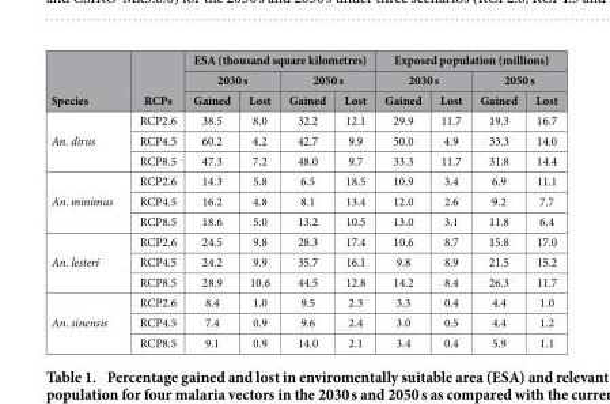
<table><thead><tr><td rowspan="3">Species</td><td rowspan="3">RCPs</td><td colspan="4">ESA (thousand square kilometres)</td><td colspan="4">Exposed population (millions)</td></tr><tr><td colspan="2">2030 s</td><td colspan="2">2050 s</td><td colspan="2">2030 s</td><td colspan="2">2050 s</td></tr><tr><td>Gained</td><td>Lost</td><td>Gained</td><td>Lost</td><td>Gained</td><td>Lost</td><td>Gained</td><td>Lost</td></tr></thead><tbody><tr><td rowspan="3">An. dirus</td><td>RCP2.6</td><td>38.5</td><td>8.0</td><td>32.2</td><td>12.1</td><td>29.9</td><td>11.7</td><td>19.3</td><td>16.7</td></tr><tr><td>RCP4.5</td><td>60.2</td><td>4.2</td><td>42.7</td><td>9.9</td><td>50.0</td><td>4.9</td><td>33.3</td><td>14.0</td></tr><tr><td>RCP8.5</td><td>47.3</td><td>7.2</td><td>48.0</td><td>9.7</td><td>33.3</td><td>11.7</td><td>31.8</td><td>14.4</td></tr><tr><td rowspan="3">An. minimus</td><td>RCP2.6</td><td>14.3</td><td>5.8</td><td>6.5</td><td>18.5</td><td>10.9</td><td>3.4</td><td>6.9</td><td>11.1</td></tr><tr><td>RCP4.5</td><td>16.2</td><td>4.8</td><td>8.1</td><td>13.4</td><td>12.0</td><td>2.6</td><td>9.2</td><td>7.7</td></tr><tr><td>RCP8.5</td><td>18.6</td><td>5.0</td><td>13.2</td><td>10.5</td><td>13.0</td><td>3.1</td><td>11.8</td><td>6.4</td></tr><tr><td rowspan="3">An. lesteri</td><td>RCP2.6</td><td>24.5</td><td>9.8</td><td>28.3</td><td>17.4</td><td>10.6</td><td>8.7</td><td>15.8</td><td>17.0</td></tr><tr><td>RCP4.5</td><td>24.2</td><td>9.9</td><td>35.7</td><td>16.1</td><td>9.8</td><td>8.9</td><td>21.5</td><td>15.2</td></tr><tr><td>RCP8.5</td><td>28.9</td><td>10.6</td><td>44.5</td><td>12.8</td><td>14.2</td><td>8.4</td><td>26.3</td><td>11.7</td></tr><tr><td rowspan="3">An. sinensis</td><td>RCP2.6</td><td>8.4</td><td>1.0</td><td>9.5</td><td>2.3</td><td>3.3</td><td>0.4</td><td>4.4</td><td>1.0</td></tr><tr><td>RCP4.5</td><td>7.4</td><td>0.9</td><td>9.6</td><td>2.4</td><td>3.0</td><td>0.5</td><td>4.4</td><td>1.2</td></tr><tr><td>RCP8.5</td><td>9.1</td><td>0.9</td><td>14.0</td><td>2.1</td><td>3.4</td><td>0.4</td><td>5.9</td><td>1.1</td></tr></tbody></table>